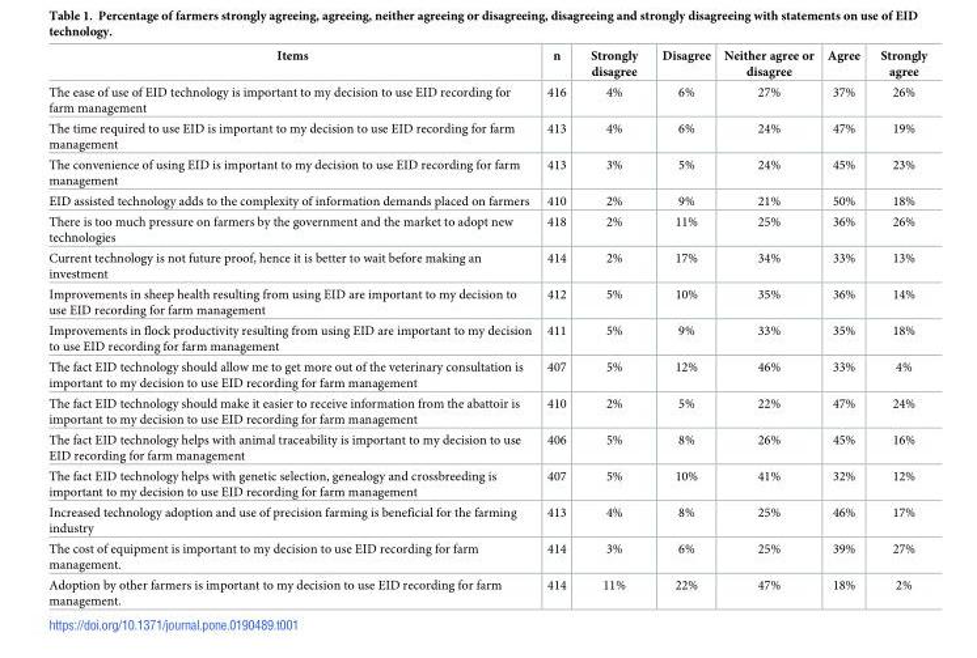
<table><thead><tr><td>Items</td><td>n</td><td>Strongly disagree</td><td>Disagree</td><td>Neither agree or disagree</td><td>Agree</td><td>Strongly agree</td></tr></thead><tbody><tr><td>The ease of use of EID technology is important to my decision to use EID recording for farm management</td><td>416</td><td>4%</td><td>6%</td><td>27%</td><td>37%</td><td>26%</td></tr><tr><td>The time required to use EID is important to my decision to use EID recording for farm management</td><td>413</td><td>4%</td><td>6%</td><td>24%</td><td>47%</td><td>19%</td></tr><tr><td>The convenience of using EID is important to my decision to use EID recording for farm management</td><td>413</td><td>3%</td><td>5%</td><td>24%</td><td>45%</td><td>23%</td></tr><tr><td>EID assisted technology adds to the complexity of information demands placed on farmers</td><td>410</td><td>2%</td><td>9%</td><td>21%</td><td>50%</td><td>18%</td></tr><tr><td>There is too much pressure on farmers by the government and the market to adopt new technologies</td><td>418</td><td>2%</td><td>11%</td><td>25%</td><td>36%</td><td>26%</td></tr><tr><td>Current technology is not future proof, hence it is better to wait before making an investment</td><td>414</td><td>2%</td><td>17%</td><td>34%</td><td>33%</td><td>13%</td></tr><tr><td>Improvements in sheep health resulting from using EID are important to my decision to use EID recording for farm management</td><td>412</td><td>5%</td><td>10%</td><td>35%</td><td>36%</td><td>14%</td></tr><tr><td>Improvements in flock productivity resulting from using EID are important to my decision to use EID recording for farm management</td><td>411</td><td>5%</td><td>9%</td><td>33%</td><td>35%</td><td>18%</td></tr><tr><td>The fact EID technology should allow me to get more out of the veterinary consultation is important to my decision to use EID recording for farm management</td><td>407</td><td>5%</td><td>12%</td><td>46%</td><td>33%</td><td>4%</td></tr><tr><td>The fact EID technology should make it easier to receive information from the abattoir is important to my decision to use EID recording for farm management</td><td>410</td><td>2%</td><td>5%</td><td>22%</td><td>47%</td><td>24%</td></tr><tr><td>The fact EID technology helps with animal traceability is important to my decision to use EID recording for farm management</td><td>406</td><td>5%</td><td>8%</td><td>26%</td><td>45%</td><td>16%</td></tr><tr><td>The fact EID technology helps with genetic selection, genealogy and crossbreeding is important to my decision to use EID recording for farm management</td><td>407</td><td>5%</td><td>10%</td><td>41%</td><td>32%</td><td>12%</td></tr><tr><td>Increased technology adoption and use of precision farming is beneficial for the farming industry</td><td>413</td><td>4%</td><td>8%</td><td>25%</td><td>46%</td><td>17%</td></tr><tr><td>The cost of equipment is important to my decision to use EID recording for farm management.</td><td>414</td><td>3%</td><td>6%</td><td>25%</td><td>39%</td><td>27%</td></tr><tr><td>Adoption by other farmers is important to my decision to use EID recording for farm management.</td><td>414</td><td>11%</td><td>22%</td><td>47%</td><td>18%</td><td>2%</td></tr></tbody></table>